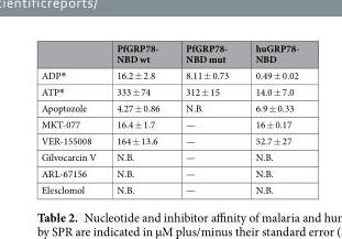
<table><thead><tr><td></td><td>PfGRP78- NBD wt</td><td>PfGRP78- NBD mut</td><td>huGRP78- NBD</td></tr></thead><tbody><tr><td>ADP*</td><td>16.2 ± 2.8</td><td>8.11 ± 0.73</td><td>0.49 ± 0.02</td></tr><tr><td>ATP*</td><td>333 ± 74</td><td>312 ± 15</td><td>14.0 ± 7.0</td></tr><tr><td>Apoptozole</td><td>4.27 ± 0.86</td><td>N.B.</td><td>6.9 ± 0.33</td></tr><tr><td>MKT-077</td><td>16.4 ± 1.7</td><td>—</td><td>16 ± 0.17</td></tr><tr><td>VER-155008</td><td>164 ± 13.6</td><td>—</td><td>52.7 ± 27</td></tr><tr><td>Gilvocarcin V</td><td>N.B.</td><td>—</td><td>N.B.</td></tr><tr><td>ARL-67156</td><td>N.B.</td><td>—</td><td>N.B.</td></tr><tr><td>Elesclomol</td><td>N.B.</td><td>—</td><td>N.B.</td></tr></tbody></table>